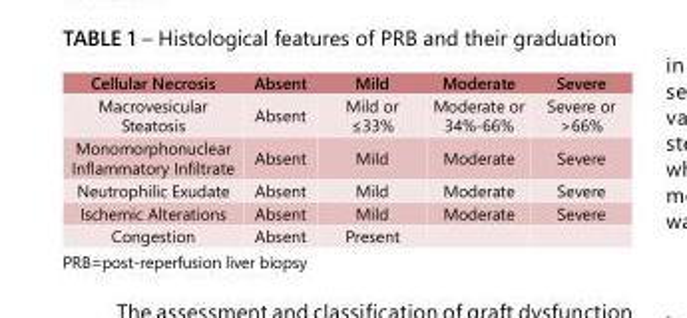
<table><tbody><tr><td>Cellular Necrosis</td><td>Absent</td><td>Mild</td><td>Moderate</td><td>Severe</td></tr><tr><td>Macrovesicular Steatosis</td><td>Absent</td><td>Mild or ≤33%</td><td>Moderate or 34%-66%</td><td>Severe or &gt;66%</td></tr><tr><td>Monomorphonuclear Inflammatory Infiltrate</td><td>Absent</td><td>Mild</td><td>Moderate</td><td>Severe</td></tr><tr><td>Neutrophilic Exudate</td><td>Absent</td><td>Mild</td><td>Moderate</td><td>Severe</td></tr><tr><td>Ischemic Alterations</td><td>Absent</td><td>Mild</td><td>Moderate</td><td>Severe</td></tr><tr><td>Congestion</td><td>Absent</td><td>Present</td><td></td><td></td></tr></tbody></table>